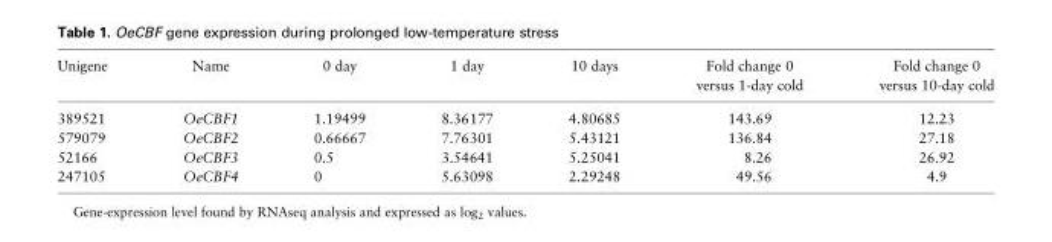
<table><thead><tr><td>Unigene</td><td>Name</td><td>0 day</td><td>1 day</td><td>10 days</td><td>Fold change 0 versus 1-day cold</td><td>Fold change 0 versus 10-day cold</td></tr></thead><tbody><tr><td>389521</td><td>OeCBF1</td><td>1.19499</td><td>8.36177</td><td>4.80685</td><td>143.69</td><td>12.23</td></tr><tr><td>579079</td><td>OeCBF2</td><td>0.66667</td><td>7.76301</td><td>5.43121</td><td>136.84</td><td>27.18</td></tr><tr><td>52166</td><td>OeCBF3</td><td>0.5</td><td>3.54641</td><td>5.25041</td><td>8.26</td><td>26.92</td></tr><tr><td>247105</td><td>OeCBF4</td><td>0</td><td>5.63098</td><td>2.29248</td><td>49.56</td><td>4.9</td></tr></tbody></table>